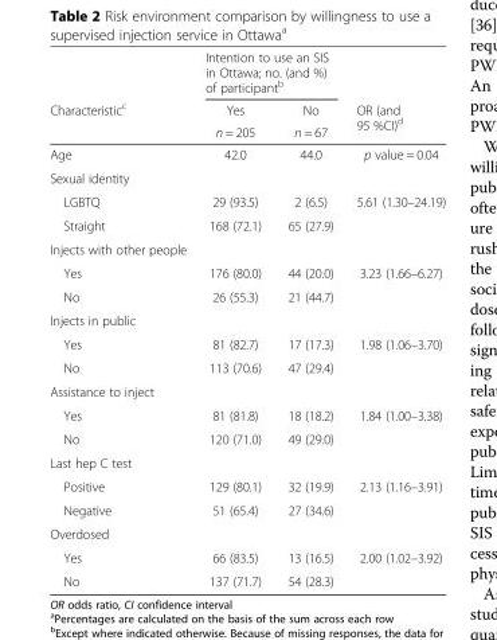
<table><thead><tr><td rowspan="3">Characteristic<sup>c</sup></td><td colspan="2">Intention to use an SIS in Ottawa; no. (and %) of participant<sup>b</sup></td><td rowspan="3">OR (and 95 %CI)<sup>d</sup></td></tr><tr><td rowspan="2">Yes n = 205</td><td rowspan="2">No n = 67</td></tr><tr></tr></thead><tbody><tr><td>Age</td><td>42.0</td><td>44.0</td><td>p value = 0.04</td></tr><tr><td colspan="4">Sexual identity</td></tr><tr><td>LGBTQ</td><td>29 (93.5)</td><td>2 (6.5)</td><td>5.61 (1.30–24.19)</td></tr><tr><td>Straight</td><td>168 (72.1)</td><td>65 (27.9)</td><td></td></tr><tr><td colspan="4">Injects with other people</td></tr><tr><td>Yes</td><td>176 (80.0)</td><td>44 (20.0)</td><td>3.23 (1.66–6.27)</td></tr><tr><td>No</td><td>26 (55.3)</td><td>21 (44.7)</td><td></td></tr><tr><td colspan="4">Injects in public</td></tr><tr><td>Yes</td><td>81 (82.7)</td><td>17 (17.3)</td><td>1.98 (1.06–3.70)</td></tr><tr><td>No</td><td>113 (70.6)</td><td>47 (29.4)</td><td></td></tr><tr><td colspan="4">Assistance to inject</td></tr><tr><td>Yes</td><td>81 (81.8)</td><td>18 (18.2)</td><td>1.84 (1.00–3.38)</td></tr><tr><td>No</td><td>120 (71.0)</td><td>49 (29.0)</td><td></td></tr><tr><td colspan="4">Last hep C test</td></tr><tr><td>Positive</td><td>129 (80.1)</td><td>32 (19.9)</td><td>2.13 (1.16–3.91)</td></tr><tr><td>Negative</td><td>51 (65.4)</td><td>27 (34.6)</td><td></td></tr><tr><td colspan="4">Overdosed</td></tr><tr><td>Yes</td><td>66 (83.5)</td><td>13 (16.5)</td><td>2.00 (1.02–3.92)</td></tr><tr><td>No</td><td>137 (71.7)</td><td>54 (28.3)</td><td></td></tr></tbody></table>